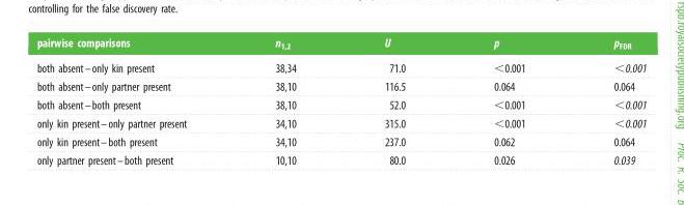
<table><thead><tr><td>pairwise comparisons</td><td>n<sub>1,2</sub></td><td>U</td><td>p</td><td>p<sub>FDR</sub></td></tr></thead><tbody><tr><td>both absent–only kin present</td><td>38,34</td><td>71.0</td><td>&lt;0.001</td><td>&lt;0.001</td></tr><tr><td>both absent–only partner present</td><td>38,10</td><td>116.5</td><td>0.064</td><td>0.064</td></tr><tr><td>both absent–both present</td><td>38,10</td><td>52.0</td><td>&lt;0.001</td><td>&lt;0.001</td></tr><tr><td>only kin present–only partner present</td><td>34,10</td><td>315.0</td><td>&lt;0.001</td><td>&lt;0.001</td></tr><tr><td>only kin present–both present</td><td>34,10</td><td>237.0</td><td>0.062</td><td>0.064</td></tr><tr><td>only partner present–both present</td><td>10,10</td><td>80.0</td><td>0.026</td><td>0.039</td></tr></tbody></table>